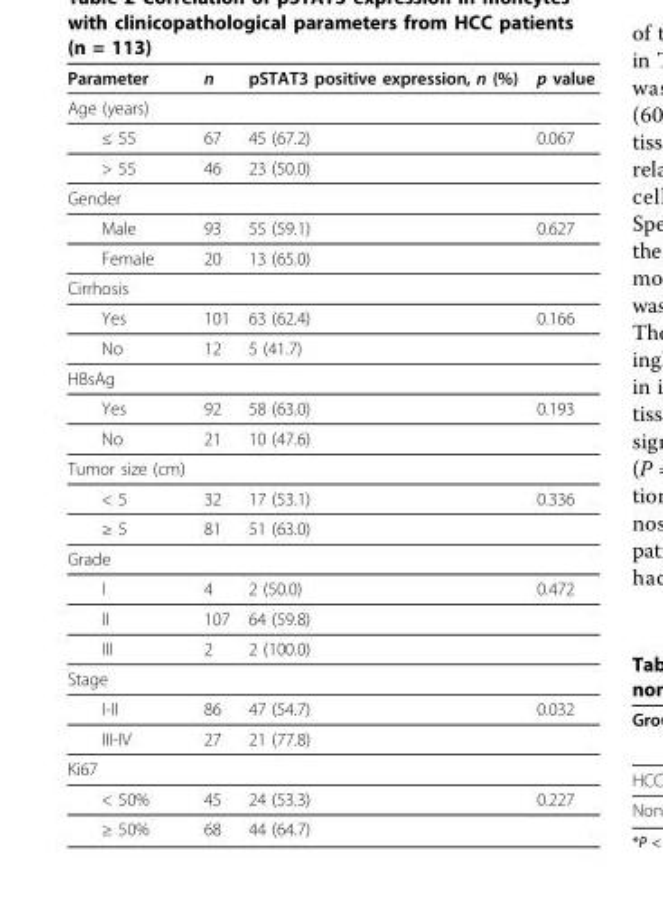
<table><thead><tr><td>Parameter</td><td>n</td><td>pSTAT3 positive expression, n (%)</td><td>p value</td></tr></thead><tbody><tr><td colspan="4">Age (years)</td></tr><tr><td>≤ 55</td><td>67</td><td>45 (67.2)</td><td>0.067</td></tr><tr><td>&gt; 55</td><td>46</td><td>23 (50.0)</td><td></td></tr><tr><td colspan="4">Gender</td></tr><tr><td>Male</td><td>93</td><td>55 (59.1)</td><td>0.627</td></tr><tr><td>Female</td><td>20</td><td>13 (65.0)</td><td></td></tr><tr><td colspan="4">Cirrhosis</td></tr><tr><td>Yes</td><td>101</td><td>63 (62.4)</td><td>0.166</td></tr><tr><td>No</td><td>12</td><td>5 (41.7)</td><td></td></tr><tr><td colspan="4">HBsAg</td></tr><tr><td>Yes</td><td>92</td><td>58 (63.0)</td><td>0.193</td></tr><tr><td>No</td><td>21</td><td>10 (47.6)</td><td></td></tr><tr><td colspan="4">Tumor size (cm)</td></tr><tr><td>&lt; 5</td><td>32</td><td>17 (53.1)</td><td>0.336</td></tr><tr><td>≥ 5</td><td>81</td><td>51 (63.0)</td><td></td></tr><tr><td colspan="4">Grade</td></tr><tr><td>I</td><td>4</td><td>2 (50.0)</td><td>0.472</td></tr><tr><td>II</td><td>107</td><td>64 (59.8)</td><td></td></tr><tr><td>III</td><td>2</td><td>2 (100.0)</td><td></td></tr><tr><td colspan="4">Stage</td></tr><tr><td>I-II</td><td>86</td><td>47 (54.7)</td><td>0.032</td></tr><tr><td>III-IV</td><td>27</td><td>21 (77.8)</td><td></td></tr><tr><td colspan="4">Ki67</td></tr><tr><td>&lt; 50%</td><td>45</td><td>24 (53.3)</td><td>0.227</td></tr><tr><td>≥ 50%</td><td>68</td><td>44 (64.7)</td><td></td></tr></tbody></table>